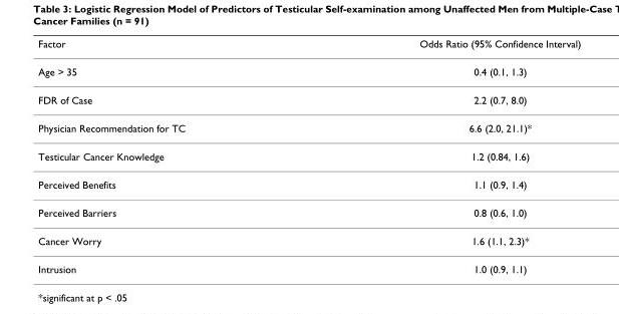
<table><thead><tr><td>Factor</td><td>Odds Ratio (95% Confidence Interval)</td></tr></thead><tbody><tr><td>Age &gt; 35</td><td>0.4 (0.1, 1.3)</td></tr><tr><td>FDR of Case</td><td>2.2 (0.7, 8.0)</td></tr><tr><td>Physician Recommendation for TC</td><td>6.6 (2.0, 21.1)*</td></tr><tr><td>Testicular Cancer Knowledge</td><td>1.2 (0.84, 1.6)</td></tr><tr><td>Perceived Benefits</td><td>1.1 (0.9, 1.4)</td></tr><tr><td>Perceived Barriers</td><td>0.8 (0.6, 1.0)</td></tr><tr><td>Cancer Worry</td><td>1.6 (1.1, 2.3)*</td></tr><tr><td>Intrusion</td><td>1.0 (0.9, 1.1)</td></tr></tbody></table>